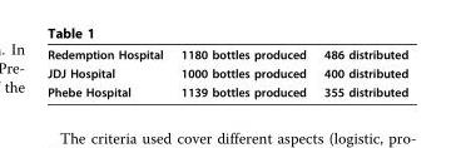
<table><tbody><tr><td>Redemption Hospital</td><td>1180 bottles produced</td><td>486 distributed</td></tr><tr><td>JDJ Hospital</td><td>1000 bottles produced</td><td>400 distributed</td></tr><tr><td>Phebe Hospital</td><td>1139 bottles produced</td><td>355 distributed</td></tr></tbody></table>